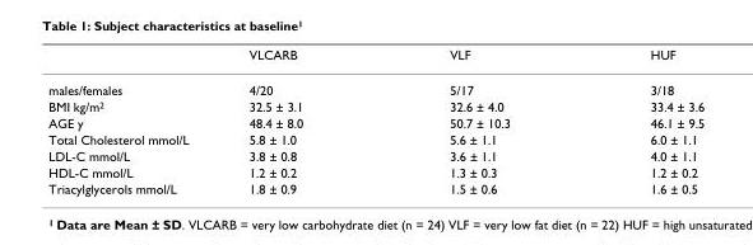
<table><thead><tr><td></td><td>VLCARB</td><td>VLF</td><td>HUF</td></tr></thead><tbody><tr><td>males/females</td><td>4/20</td><td>5/17</td><td>3/18</td></tr><tr><td>BMI kg/m<sup>2</sup></td><td>32.5 ± 3.1</td><td>32.6 ± 4.0</td><td>33.4 ± 3.6</td></tr><tr><td>AGE y</td><td>48.4 ± 8.0</td><td>50.7 ± 10.3</td><td>46.1 ± 9.5</td></tr><tr><td>Total Cholesterol mmol/L</td><td>5.8 ± 1.0</td><td>5.6 ± 1.1</td><td>6.0 ± 1.1</td></tr><tr><td>LDL-C mmol/L</td><td>3.8 ± 0.8</td><td>3.6 ± 1.1</td><td>4.0 ± 1.1</td></tr><tr><td>HDL-C mmol/L</td><td>1.2 ± 0.2</td><td>1.3 ± 0.3</td><td>1.2 ± 0.2</td></tr><tr><td>Triacylglycerols mmol/L</td><td>1.8 ± 0.9</td><td>1.5 ± 0.6</td><td>1.6 ± 0.5</td></tr></tbody></table>